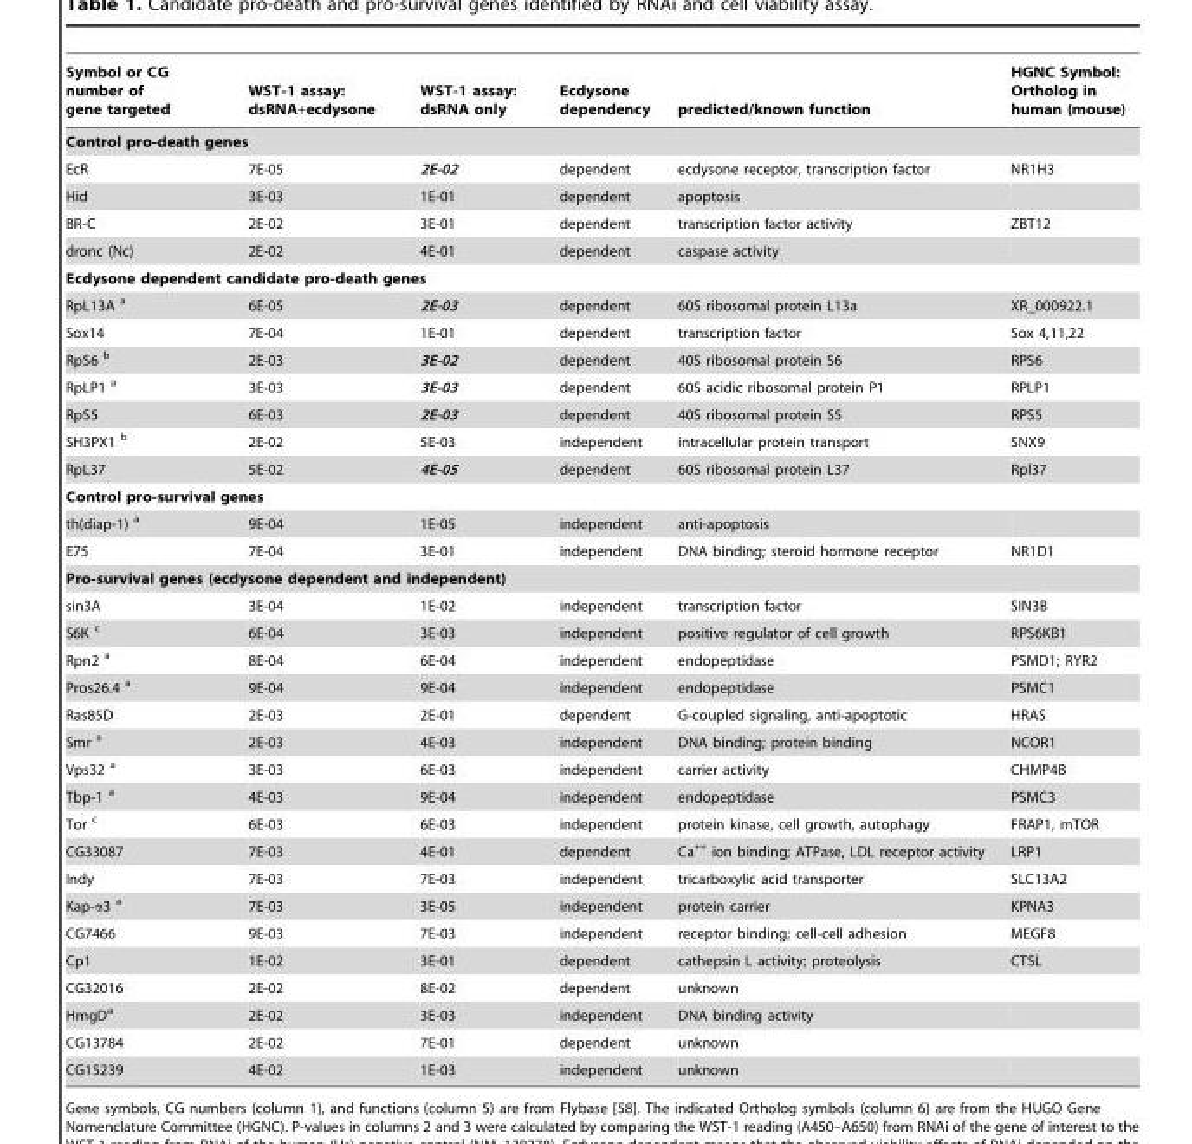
<table><thead><tr><td>Symbol or CG number of gene targeted</td><td>WST-1 assay: dsRNA+ecdysone</td><td>WST-1 assay: dsRNA only</td><td>Ecdysone dependency</td><td>predicted/known function</td><td>HGNC Symbol: Ortholog in human (mouse)</td></tr></thead><tbody><tr><td colspan="6">Control pro-death genes</td></tr><tr><td>EcR</td><td>7E-05</td><td>2E-02</td><td>dependent</td><td>ecdysone receptor, transcription factor</td><td>NR1H3</td></tr><tr><td>Hid</td><td>3E-03</td><td>1E-01</td><td>dependent</td><td>apoptosis</td><td></td></tr><tr><td>BR-C</td><td>2E-02</td><td>3E-01</td><td>dependent</td><td>transcription factor activity</td><td>ZBT12</td></tr><tr><td>dronc (Nc)</td><td>2E-02</td><td>4E-01</td><td>dependent</td><td>caspase activity</td><td></td></tr><tr><td colspan="6">Ecdysone dependent candidate pro-death genes</td></tr><tr><td>RpL13A <sup>a</sup></td><td>6E-05</td><td>2E-03</td><td>dependent</td><td>60S ribosomal protein L13a</td><td>XR_000922.1</td></tr><tr><td>Sox14</td><td>7E-04</td><td>1E-01</td><td>dependent</td><td>transcription factor</td><td>Sox 4,11,22</td></tr><tr><td>RpS6 <sup>b</sup></td><td>2E-03</td><td>3E-02</td><td>dependent</td><td>40S ribosomal protein S6</td><td>RPS6</td></tr><tr><td>RpLP1 <sup>a</sup></td><td>3E-03</td><td>3E-03</td><td>dependent</td><td>60S acidic ribosomal protein P1</td><td>RPLP1</td></tr><tr><td>RpS5</td><td>6E-03</td><td>2E-03</td><td>dependent</td><td>40S ribosomal protein S5</td><td>RPS5</td></tr><tr><td>SH3PX1 <sup>b</sup></td><td>2E-02</td><td>5E-03</td><td>independent</td><td>intracellular protein transport</td><td>SNX9</td></tr><tr><td>RpL37</td><td>5E-02</td><td>4E-05</td><td>dependent</td><td>60S ribosomal protein L37</td><td>Rpl37</td></tr><tr><td colspan="6">Control pro-survival genes</td></tr><tr><td>th(diap-1) <sup>a</sup></td><td>9E-04</td><td>1E-05</td><td>independent</td><td>anti-apoptosis</td><td></td></tr><tr><td>E75</td><td>7E-04</td><td>3E-01</td><td>independent</td><td>DNA binding; steroid hormone receptor</td><td>NR1D1</td></tr><tr><td colspan="6">Pro-survival genes (ecdysone dependent and independent)</td></tr><tr><td>sin3A</td><td>3E-04</td><td>1E-02</td><td>independent</td><td>transcription factor</td><td>SIN3B</td></tr><tr><td>S6K <sup>c</sup></td><td>6E-04</td><td>3E-03</td><td>independent</td><td>positive regulator of cell growth</td><td>RPS6KB1</td></tr><tr><td>Rpn2 <sup>a</sup></td><td>8E-04</td><td>6E-04</td><td>independent</td><td>endopeptidase</td><td>PSMD1; RYR2</td></tr><tr><td>Pros26.4 <sup>a</sup></td><td>9E-04</td><td>9E-04</td><td>independent</td><td>endopeptidase</td><td>PSMC1</td></tr><tr><td>Ras85D</td><td>2E-03</td><td>2E-01</td><td>dependent</td><td>G-coupled signaling, anti-apoptotic</td><td>HRAS</td></tr><tr><td>Smr <sup>a</sup></td><td>2E-03</td><td>4E-03</td><td>independent</td><td>DNA binding; protein binding</td><td>NCOR1</td></tr><tr><td>Vps32 <sup>a</sup></td><td>3E-03</td><td>6E-03</td><td>independent</td><td>carrier activity</td><td>CHMP4B</td></tr><tr><td>Tbp-1 <sup>a</sup></td><td>4E-03</td><td>9E-04</td><td>independent</td><td>endopeptidase</td><td>PSMC3</td></tr><tr><td>Tor <sup>c</sup></td><td>6E-03</td><td>6E-03</td><td>independent</td><td>protein kinase, cell growth, autophagy</td><td>FRAP1, mTOR</td></tr><tr><td>CG33087</td><td>7E-03</td><td>4E-01</td><td>dependent</td><td>Ca<sup>++</sup> ion binding; ATPase, LDL receptor activity</td><td>LRP1</td></tr><tr><td>Indy</td><td>7E-03</td><td>7E-03</td><td>independent</td><td>tricarboxylic acid transporter</td><td>SLC13A2</td></tr><tr><td>Kap-α3 <sup>a</sup></td><td>7E-03</td><td>3E-05</td><td>independent</td><td>protein carrier</td><td>KPNA3</td></tr><tr><td>CG7466</td><td>9E-03</td><td>7E-03</td><td>independent</td><td>receptor binding; cell-cell adhesion</td><td>MEGF8</td></tr><tr><td>Cp1</td><td>1E-02</td><td>3E-01</td><td>dependent</td><td>cathepsin L activity; proteolysis</td><td>CTSL</td></tr><tr><td>CG32016</td><td>2E-02</td><td>8E-02</td><td>dependent</td><td>unknown</td><td></td></tr><tr><td>HmgD<sup>a</sup></td><td>2E-02</td><td>3E-03</td><td>independent</td><td>DNA binding activity</td><td></td></tr><tr><td>CG13784</td><td>2E-02</td><td>7E-01</td><td>dependent</td><td>unknown</td><td></td></tr><tr><td>CG15239</td><td>4E-02</td><td>1E-03</td><td>independent</td><td>unknown</td><td></td></tr></tbody></table>